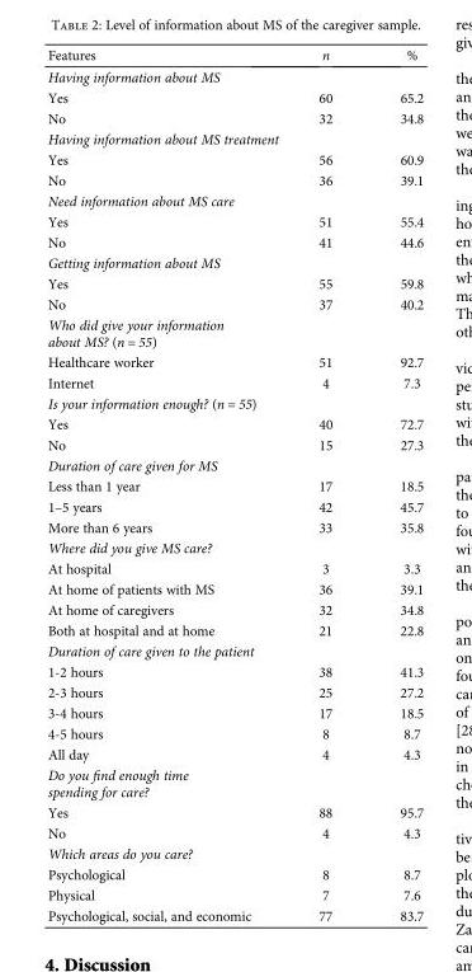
<table><thead><tr><td>Features</td><td>n</td><td>%</td></tr></thead><tbody><tr><td colspan="3">Having information about MS</td></tr><tr><td>Yes</td><td>60</td><td>65.2</td></tr><tr><td>No</td><td>32</td><td>34.8</td></tr><tr><td colspan="3">Having information about MS treatment</td></tr><tr><td>Yes</td><td>56</td><td>60.9</td></tr><tr><td>No</td><td>36</td><td>39.1</td></tr><tr><td colspan="3">Need information about MS care</td></tr><tr><td>Yes</td><td>51</td><td>55.4</td></tr><tr><td>No</td><td>41</td><td>44.6</td></tr><tr><td colspan="3">Getting information about MS</td></tr><tr><td>Yes</td><td>55</td><td>59.8</td></tr><tr><td>No</td><td>37</td><td>40.2</td></tr><tr><td colspan="3">Who did give your information about MS? (n = 55)</td></tr><tr><td>Healthcare worker</td><td>51</td><td>92.7</td></tr><tr><td>Internet</td><td>4</td><td>7.3</td></tr><tr><td colspan="3">Is your information enough? (n = 55)</td></tr><tr><td>Yes</td><td>40</td><td>72.7</td></tr><tr><td>No</td><td>15</td><td>27.3</td></tr><tr><td colspan="3">Duration of care given for MS</td></tr><tr><td>Less than 1 year</td><td>17</td><td>18.5</td></tr><tr><td>1–5 years</td><td>42</td><td>45.7</td></tr><tr><td>More than 6 years</td><td>33</td><td>35.8</td></tr><tr><td colspan="3">Where did you give MS care?</td></tr><tr><td>At hospital</td><td>3</td><td>3.3</td></tr><tr><td>At home of patients with MS</td><td>36</td><td>39.1</td></tr><tr><td>At home of caregivers</td><td>32</td><td>34.8</td></tr><tr><td>Both at hospital and at home</td><td>21</td><td>22.8</td></tr><tr><td colspan="3">Duration of care given to the patient</td></tr><tr><td>1-2 hours</td><td>38</td><td>41.3</td></tr><tr><td>2-3 hours</td><td>25</td><td>27.2</td></tr><tr><td>3-4 hours</td><td>17</td><td>18.5</td></tr><tr><td>4-5 hours</td><td>8</td><td>8.7</td></tr><tr><td>All day</td><td>4</td><td>4.3</td></tr><tr><td colspan="3">Do you find enough time spending for care?</td></tr><tr><td>Yes</td><td>88</td><td>95.7</td></tr><tr><td>No</td><td>4</td><td>4.3</td></tr><tr><td colspan="3">Which areas do you care?</td></tr><tr><td>Psychological</td><td>8</td><td>8.7</td></tr><tr><td>Physical</td><td>7</td><td>7.6</td></tr><tr><td>Psychological, social, and economic</td><td>77</td><td>83.7</td></tr></tbody></table>